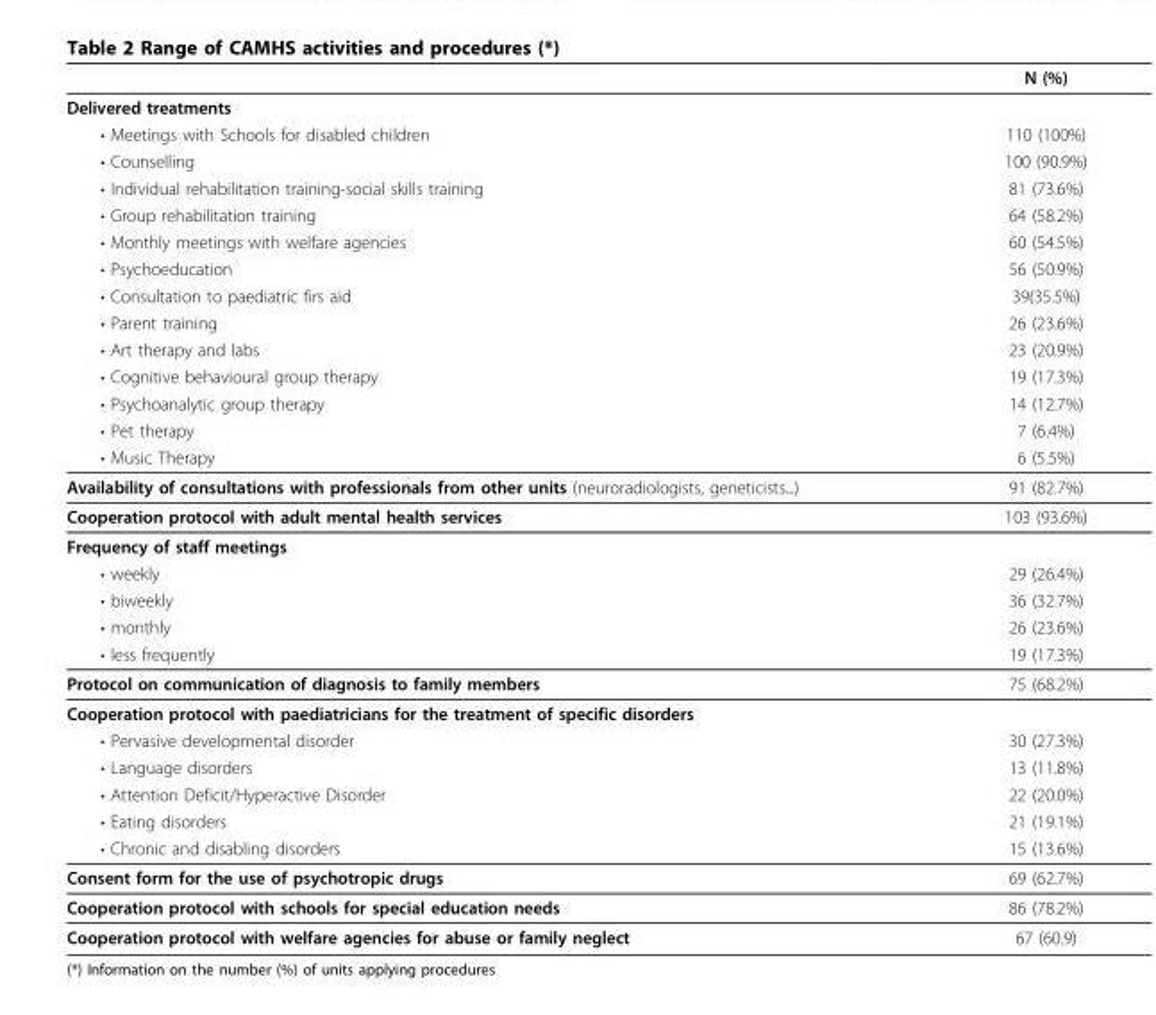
<table><thead><tr><td></td><td>N (%)</td></tr></thead><tbody><tr><td colspan="2">Delivered treatments</td></tr><tr><td>• Meetings with Schools for disabled children</td><td>110 (100%)</td></tr><tr><td>• Counselling</td><td>100 (90.9%)</td></tr><tr><td>• Individual rehabilitation training-social skills training</td><td>81 (73.6%)</td></tr><tr><td>• Group rehabilitation training</td><td>64 (58.2%)</td></tr><tr><td>• Monthly meetings with welfare agencies</td><td>60 (54.5%)</td></tr><tr><td>• Psychoeducation</td><td>56 (50.9%)</td></tr><tr><td>• Consultation to paediatric firs aid</td><td>39(35.5%)</td></tr><tr><td>• Parent training</td><td>26 (23.6%)</td></tr><tr><td>• Art therapy and labs</td><td>23 (20.9%)</td></tr><tr><td>• Cognitive behavioural group therapy</td><td>19 (17.3%)</td></tr><tr><td>• Psychoanalytic group therapy</td><td>14 (12.7%)</td></tr><tr><td>• Pet therapy</td><td>7 (6.4%)</td></tr><tr><td>• Music Therapy</td><td>6 (5.5%)</td></tr><tr><td>Availability of consultations with professionals from other units (neuroradiologists, geneticists...)</td><td>91 (82.7%)</td></tr><tr><td>Cooperation protocol with adult mental health services</td><td>103 (93.6%)</td></tr><tr><td colspan="2">Frequency of staff meetings</td></tr><tr><td>• weekly</td><td>29 (26.4%)</td></tr><tr><td>• biweekly</td><td>36 (32.7%)</td></tr><tr><td>• monthly</td><td>26 (23.6%)</td></tr><tr><td>• less frequently</td><td>19 (17.3%)</td></tr><tr><td>Protocol on communication of diagnosis to family members</td><td>75 (68.2%)</td></tr><tr><td colspan="2">Cooperation protocol with paediatricians for the treatment of specific disorders</td></tr><tr><td>• Pervasive developmental disorder</td><td>30 (27.3%)</td></tr><tr><td>• Language disorders</td><td>13 (11.8%)</td></tr><tr><td>• Attention Deficit/Hyperactive Disorder</td><td>22 (20.0%)</td></tr><tr><td>• Eating disorders</td><td>21 (19.1%)</td></tr><tr><td>• Chronic and disabling disorders</td><td>15 (13.6%)</td></tr><tr><td>Consent form for the use of psychotropic drugs</td><td>69 (62.7%)</td></tr><tr><td>Cooperation protocol with schools for special education needs</td><td>86 (78.2%)</td></tr><tr><td>Cooperation protocol with welfare agencies for abuse or family neglect</td><td>67 (60.9)</td></tr></tbody></table>